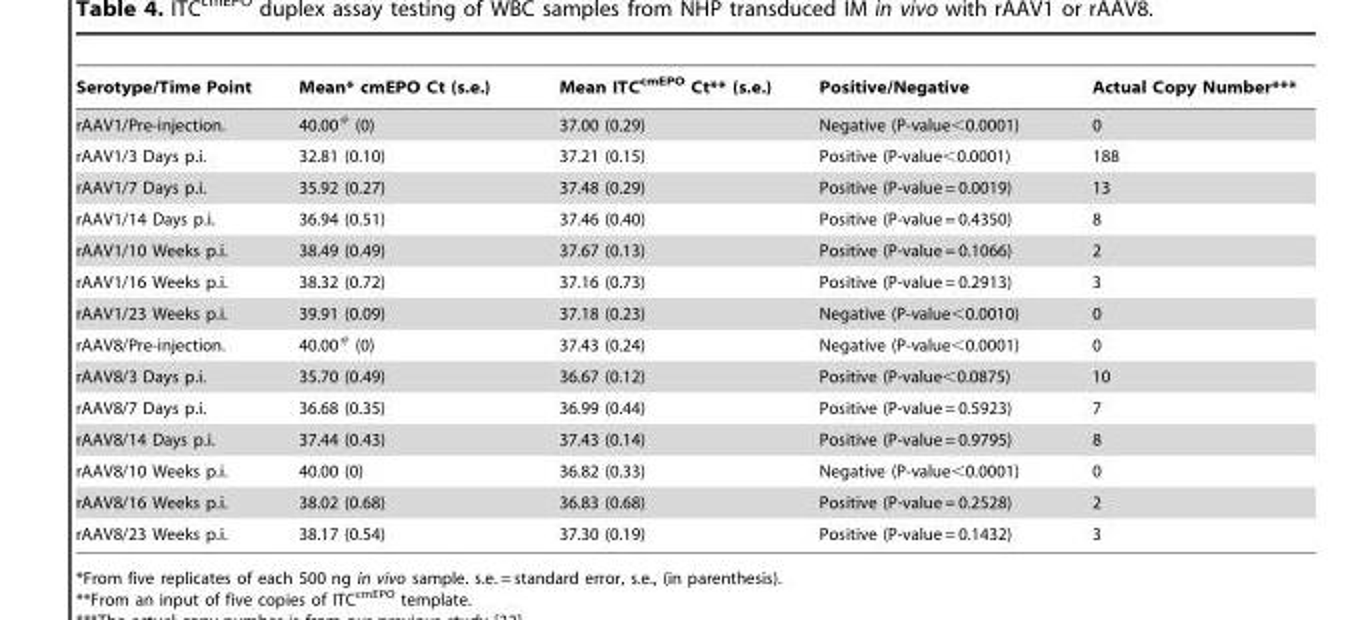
<table><thead><tr><td>Serotype/Time Point</td><td>Mean* cmEPO Ct (s.e.)</td><td>Mean ITC<sup>cmEPO</sup> Ct** (s.e.)</td><td>Positive/Negative</td><td>Actual Copy Number***</td></tr></thead><tbody><tr><td>rAAV1/Pre-injection.</td><td>40.00# (0)</td><td>37.00 (0.29)</td><td>Negative (P-value&lt;0.0001)</td><td>0</td></tr><tr><td>rAAV1/3 Days p.i.</td><td>32.81 (0.10)</td><td>37.21 (0.15)</td><td>Positive (P-value&lt;0.0001)</td><td>188</td></tr><tr><td>rAAV1/7 Days p.i.</td><td>35.92 (0.27)</td><td>37.48 (0.29)</td><td>Positive (P-value = 0.0019)</td><td>13</td></tr><tr><td>rAAV1/14 Days p.i.</td><td>36.94 (0.51)</td><td>37.46 (0.40)</td><td>Positive (P-value = 0.4350)</td><td>8</td></tr><tr><td>rAAV1/10 Weeks p.i.</td><td>38.49 (0.49)</td><td>37.67 (0.13)</td><td>Positive (P-value = 0.1066)</td><td>2</td></tr><tr><td>rAAV1/16 Weeks p.i.</td><td>38.32 (0.72)</td><td>37.16 (0.73)</td><td>Positive (P-value = 0.2913)</td><td>3</td></tr><tr><td>rAAV1/23 Weeks p.i.</td><td>39.91 (0.09)</td><td>37.18 (0.23)</td><td>Negative (P-value&lt;0.0010)</td><td>0</td></tr><tr><td>rAAV8/Pre-injection.</td><td>40.00# (0)</td><td>37.43 (0.24)</td><td>Negative (P-value&lt;0.0001)</td><td>0</td></tr><tr><td>rAAV8/3 Days p.i.</td><td>35.70 (0.49)</td><td>36.67 (0.12)</td><td>Positive (P-value&lt;0.0875)</td><td>10</td></tr><tr><td>rAAV8/7 Days p.i.</td><td>36.68 (0.35)</td><td>36.99 (0.44)</td><td>Positive (P-value = 0.5923)</td><td>7</td></tr><tr><td>rAAV8/14 Days p.i.</td><td>37.44 (0.43)</td><td>37.43 (0.14)</td><td>Positive (P-value = 0.9795)</td><td>8</td></tr><tr><td>rAAV8/10 Weeks p.i.</td><td>40.00 (0)</td><td>36.82 (0.33)</td><td>Negative (P-value&lt;0.0001)</td><td>0</td></tr><tr><td>rAAV8/16 Weeks p.i.</td><td>38.02 (0.68)</td><td>36.83 (0.68)</td><td>Positive (P-value = 0.2528)</td><td>2</td></tr><tr><td>rAAV8/23 Weeks p.i.</td><td>38.17 (0.54)</td><td>37.30 (0.19)</td><td>Positive (P-value = 0.1432)</td><td>3</td></tr></tbody></table>